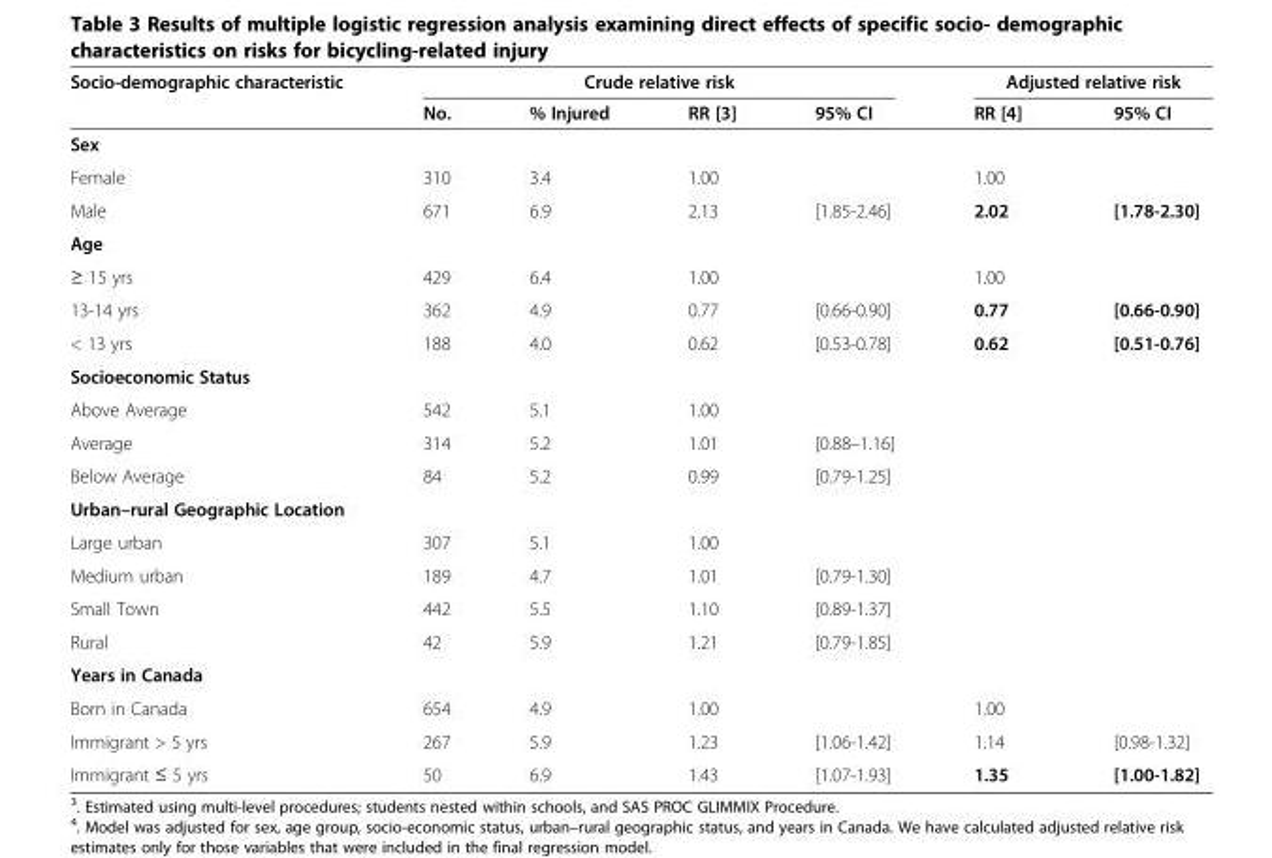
<table><thead><tr><td rowspan="2">Socio-demographic characteristic</td><td colspan="4">Crude relative risk</td><td colspan="2">Adjusted relative risk</td></tr><tr><td>No.</td><td>% Injured</td><td>RR [3]</td><td>95% CI</td><td>RR [4]</td><td>95% CI</td></tr></thead><tbody><tr><td colspan="7">Sex</td></tr><tr><td>Female</td><td>310</td><td>3.4</td><td>1.00</td><td></td><td>1.00</td><td></td></tr><tr><td>Male</td><td>671</td><td>6.9</td><td>2.13</td><td>[1.85-2.46]</td><td>2.02</td><td>[1.78-2.30]</td></tr><tr><td colspan="7">Age</td></tr><tr><td>≥ 15 yrs</td><td>429</td><td>6.4</td><td>1.00</td><td></td><td>1.00</td><td></td></tr><tr><td>13-14 yrs</td><td>362</td><td>4.9</td><td>0.77</td><td>[0.66-0.90]</td><td>0.77</td><td>[0.66-0.90]</td></tr><tr><td>&lt; 13 yrs</td><td>188</td><td>4.0</td><td>0.62</td><td>[0.53-0.78]</td><td>0.62</td><td>[0.51-0.76]</td></tr><tr><td colspan="7">Socioeconomic Status</td></tr><tr><td>Above Average</td><td>542</td><td>5.1</td><td>1.00</td><td></td><td></td><td></td></tr><tr><td>Average</td><td>314</td><td>5.2</td><td>1.01</td><td>[0.88–1.16]</td><td></td><td></td></tr><tr><td>Below Average</td><td>84</td><td>5.2</td><td>0.99</td><td>[0.79-1.25]</td><td></td><td></td></tr><tr><td colspan="7">Urban–rural Geographic Location</td></tr><tr><td>Large urban</td><td>307</td><td>5.1</td><td>1.00</td><td></td><td></td><td></td></tr><tr><td>Medium urban</td><td>189</td><td>4.7</td><td>1.01</td><td>[0.79-1.30]</td><td></td><td></td></tr><tr><td>Small Town</td><td>442</td><td>5.5</td><td>1.10</td><td>[0.89-1.37]</td><td></td><td></td></tr><tr><td>Rural</td><td>42</td><td>5.9</td><td>1.21</td><td>[0.79-1.85]</td><td></td><td></td></tr><tr><td colspan="7">Years in Canada</td></tr><tr><td>Born in Canada</td><td>654</td><td>4.9</td><td>1.00</td><td></td><td>1.00</td><td></td></tr><tr><td>Immigrant &gt; 5 yrs</td><td>267</td><td>5.9</td><td>1.23</td><td>[1.06-1.42]</td><td>1.14</td><td>[0.98-1.32]</td></tr><tr><td>Immigrant ≤ 5 yrs</td><td>50</td><td>6.9</td><td>1.43</td><td>[1.07-1.93]</td><td>1.35</td><td>[1.00-1.82]</td></tr></tbody></table>